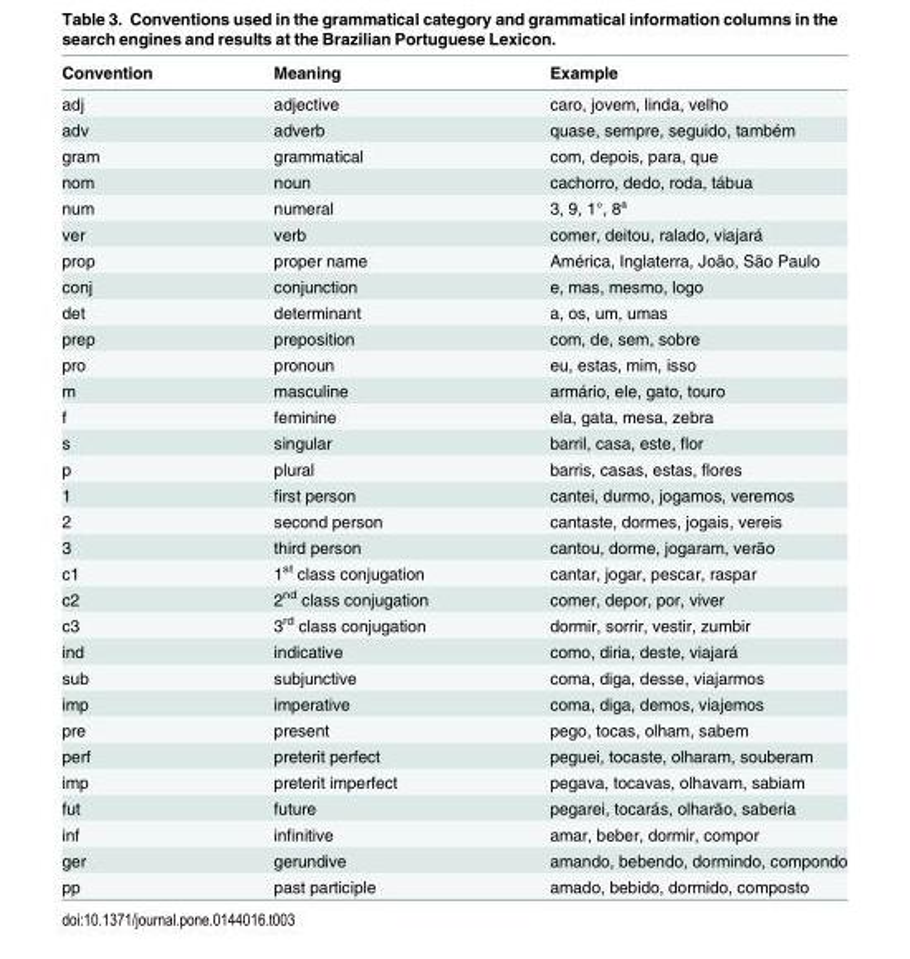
<table><thead><tr><td>Convention</td><td>Meaning</td><td>Example</td></tr></thead><tbody><tr><td>adj</td><td>adjective</td><td>caro, jovem, linda, velho</td></tr><tr><td>adv</td><td>adverb</td><td>quase, sempre, seguido, também</td></tr><tr><td>gram</td><td>grammatical</td><td>com, depois, para, que</td></tr><tr><td>nom</td><td>noun</td><td>cachorro, dedo, roda, tábua</td></tr><tr><td>num</td><td>numeral</td><td>3, 9, 1°, 8ª</td></tr><tr><td>ver</td><td>verb</td><td>comer, deitou, ralado, viajará</td></tr><tr><td>prop</td><td>proper name</td><td>América, Inglaterra, João, São Paulo</td></tr><tr><td>conj</td><td>conjunction</td><td>e, mas, mesmo, logo</td></tr><tr><td>det</td><td>determinant</td><td>a, os, um, umas</td></tr><tr><td>prep</td><td>preposition</td><td>com, de, sem, sobre</td></tr><tr><td>pro</td><td>pronoun</td><td>eu, estas, mim, isso</td></tr><tr><td>m</td><td>masculine</td><td>armário, ele, gato, touro</td></tr><tr><td>f</td><td>feminine</td><td>ela, gata, mesa, zebra</td></tr><tr><td>s</td><td>singular</td><td>barril, casa, este, flor</td></tr><tr><td>p</td><td>plural</td><td>barris, casas, estas, flores</td></tr><tr><td>1</td><td>first person</td><td>cantei, durmo, jogamos, veremos</td></tr><tr><td>2</td><td>second person</td><td>cantaste, dormes, jogais, vereis</td></tr><tr><td>3</td><td>third person</td><td>cantou, dorme, jogaram, verão</td></tr><tr><td>c1</td><td>1<sup>st</sup> class conjugation</td><td>cantar, jogar, pescar, raspar</td></tr><tr><td>c2</td><td>2<sup>nd</sup> class conjugation</td><td>comer, depor, por, viver</td></tr><tr><td>c3</td><td>3<sup>rd</sup> class conjugation</td><td>dormir, sorrir, vestir, zumbir</td></tr><tr><td>ind</td><td>indicative</td><td>como, diria, deste, viajará</td></tr><tr><td>sub</td><td>subjunctive</td><td>coma, diga, desse, viajarmos</td></tr><tr><td>imp</td><td>imperative</td><td>coma, diga, demos, viajemos</td></tr><tr><td>pre</td><td>present</td><td>pego, tocas, olham, sabem</td></tr><tr><td>perf</td><td>preterit perfect</td><td>peguei, tocaste, olharam, souberam</td></tr><tr><td>imp</td><td>preterit imperfect</td><td>pegava, tocavas, olhavam, sabiam</td></tr><tr><td>fut</td><td>future</td><td>pegarei, tocarás, olharão, saberia</td></tr><tr><td>inf</td><td>infinitive</td><td>amar, beber, dormir, compor</td></tr><tr><td>ger</td><td>gerundive</td><td>amando, bebendo, dormindo, compondo</td></tr><tr><td>pp</td><td>past participle</td><td>amado, bebido, dormido, composto</td></tr></tbody></table>